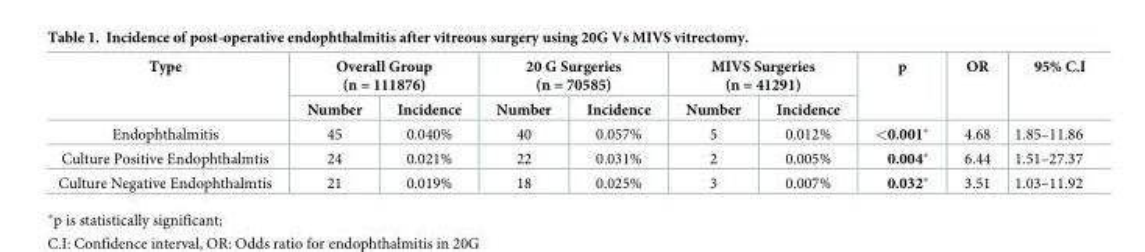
<table><thead><tr><td rowspan="2">Type</td><td colspan="2">Overall Group (n = 111876)</td><td colspan="2">20 G Surgeries (n = 70585)</td><td colspan="2">MIVS Surgeries (n = 41291)</td><td rowspan="2">p</td><td rowspan="2">OR</td><td rowspan="2">95% C.I</td></tr><tr><td>Number</td><td>Incidence</td><td>Number</td><td>Incidence</td><td>Number</td><td>Incidence</td></tr></thead><tbody><tr><td>Endophthalmitis</td><td>45</td><td>0.040%</td><td>40</td><td>0.057%</td><td>5</td><td>0.012%</td><td>&lt;0.001*</td><td>4.68</td><td>1.85–11.86</td></tr><tr><td>Culture Positive Endophthalmtis</td><td>24</td><td>0.021%</td><td>22</td><td>0.031%</td><td>2</td><td>0.005%</td><td>0.004*</td><td>6.44</td><td>1.51–27.37</td></tr><tr><td>Culture Negative Endophthalmtis</td><td>21</td><td>0.019%</td><td>18</td><td>0.025%</td><td>3</td><td>0.007%</td><td>0.032*</td><td>3.51</td><td>1.03–11.92</td></tr></tbody></table>